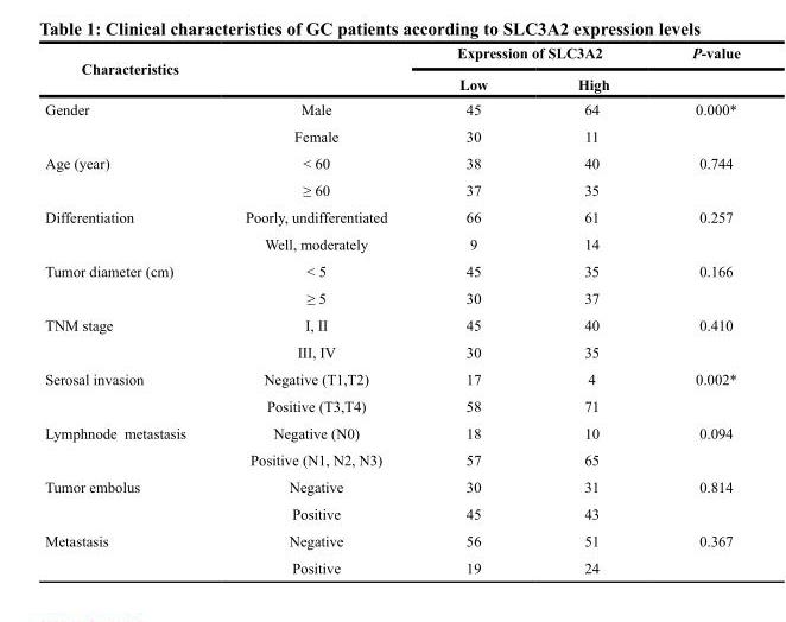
<table><thead><tr><td rowspan="2">Characteristics</td><td rowspan="2"></td><td colspan="2">Expression of SLC3A2</td><td rowspan="2">P-value</td></tr><tr><td>Low</td><td>High</td></tr></thead><tbody><tr><td rowspan="2">Gender</td><td>Male</td><td>45</td><td>64</td><td>0.000*</td></tr><tr><td>Female</td><td>30</td><td>11</td><td></td></tr><tr><td rowspan="2">Age (year)</td><td>&lt; 60</td><td>38</td><td>40</td><td>0.744</td></tr><tr><td>≥ 60</td><td>37</td><td>35</td><td></td></tr><tr><td rowspan="2">Differentiation</td><td>Poorly, undifferentiated</td><td>66</td><td>61</td><td>0.257</td></tr><tr><td>Well, moderately</td><td>9</td><td>14</td><td></td></tr><tr><td rowspan="2">Tumor diameter (cm)</td><td>&lt; 5</td><td>45</td><td>35</td><td>0.166</td></tr><tr><td>≥ 5</td><td>30</td><td>37</td><td></td></tr><tr><td rowspan="2">TNM stage</td><td>I, II</td><td>45</td><td>40</td><td>0.410</td></tr><tr><td>III, IV</td><td>30</td><td>35</td><td></td></tr><tr><td rowspan="2">Serosal invasion</td><td>Negative (T1,T2)</td><td>17</td><td>4</td><td>0.002*</td></tr><tr><td>Positive (T3,T4)</td><td>58</td><td>71</td><td></td></tr><tr><td rowspan="2">Lymphnode metastasis</td><td>Negative (N0)</td><td>18</td><td>10</td><td>0.094</td></tr><tr><td>Positive (N1, N2, N3)</td><td>57</td><td>65</td><td></td></tr><tr><td rowspan="2">Tumor embolus</td><td>Negative</td><td>30</td><td>31</td><td>0.814</td></tr><tr><td>Positive</td><td>45</td><td>43</td><td></td></tr><tr><td rowspan="2">Metastasis</td><td>Negative</td><td>56</td><td>51</td><td>0.367</td></tr><tr><td>Positive</td><td>19</td><td>24</td><td></td></tr></tbody></table>